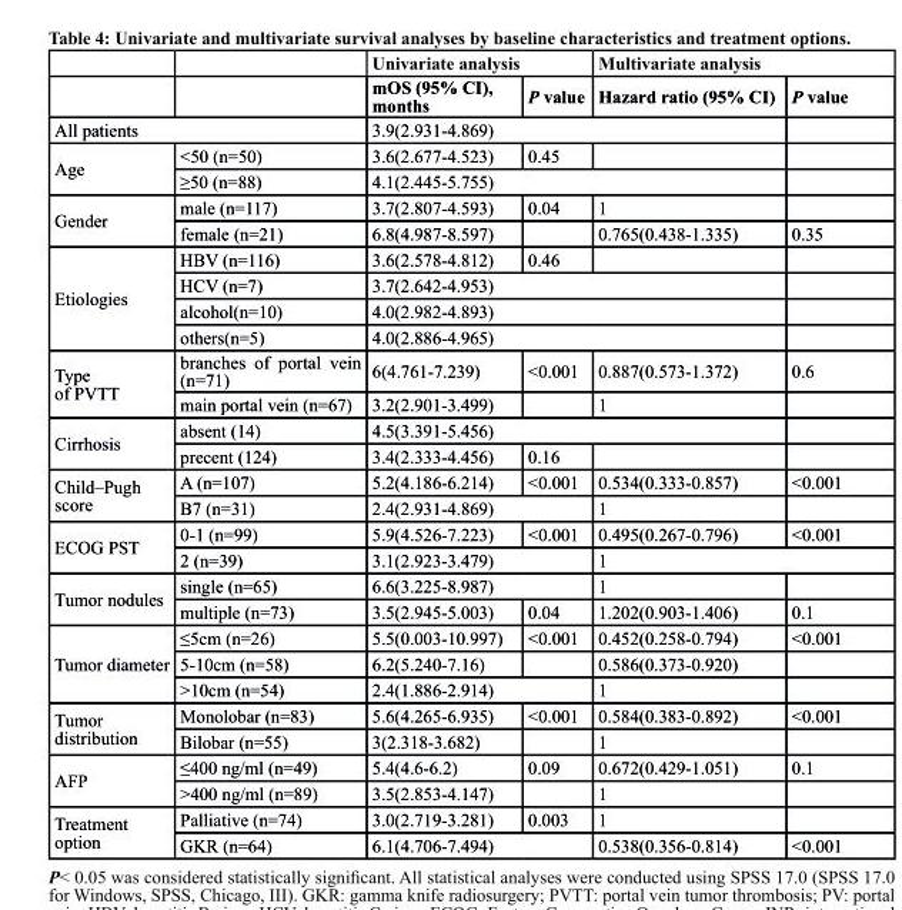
<table><thead><tr><td rowspan="2"></td><td rowspan="2"></td><td colspan="2">univariate analysis</td><td colspan="2">Multivariate analysis</td></tr><tr><td>mos (95% cI), months</td><td>P value</td><td>Hazard ratio (95% cI)</td><td>P value</td></tr></thead><tbody><tr><td colspan="2">All patients</td><td colspan="3">3.9(2.931-4.869)</td><td></td></tr><tr><td rowspan="2">Age</td><td>&lt;50 (n=50)</td><td>3.6(2.677-4.523)</td><td>0.45</td><td></td><td></td></tr><tr><td>≥50 (n=88)</td><td colspan="3">4.1(2.445-5.755)</td><td></td></tr><tr><td rowspan="2">Gender</td><td>male (n=117)</td><td>3.7(2.807-4.593)</td><td>0.04</td><td>1</td><td></td></tr><tr><td>female (n=21)</td><td>6.8(4.987-8.597)</td><td></td><td>0.765(0.438-1.335)</td><td>0.35</td></tr><tr><td rowspan="4">Etiologies</td><td>HBV (n=116)</td><td>3.6(2.578-4.812)</td><td>0.46</td><td></td><td></td></tr><tr><td>HCV (n=7)</td><td colspan="3">3.7(2.642-4.953)</td><td></td></tr><tr><td>alcohol(n=10)</td><td colspan="3">4.0(2.982-4.893)</td><td></td></tr><tr><td>others(n=5)</td><td colspan="3">4.0(2.886-4.965)</td><td></td></tr><tr><td rowspan="2">Type of PVTT</td><td>branches of portal vein (n=71)</td><td>6(4.761-7.239)</td><td>&lt;0.001</td><td>0.887(0.573-1.372)</td><td>0.6</td></tr><tr><td>main portal vein (n=67)</td><td>3.2(2.901-3.499)</td><td></td><td>1</td><td></td></tr><tr><td rowspan="2">Cirrhosis</td><td>absent (14)</td><td colspan="3">4.5(3.391-5.456)</td><td></td></tr><tr><td>precent (124)</td><td>3.4(2.333-4.456)</td><td>0.16</td><td></td><td></td></tr><tr><td rowspan="2">Child–Pugh score</td><td>A (n=107)</td><td>5.2(4.186-6.214)</td><td>&lt;0.001</td><td>0.534(0.333-0.857)</td><td>&lt;0.001</td></tr><tr><td>B7 (n=31)</td><td colspan="2">2.4(2.931-4.869)</td><td>1</td><td></td></tr><tr><td rowspan="2">ECOG PST</td><td>0-1 (n=99)</td><td>5.9(4.526-7.223)</td><td>&lt;0.001</td><td>0.495(0.267-0.796)</td><td>&lt;0.001</td></tr><tr><td>2 (n=39)</td><td colspan="2">3.1(2.923-3.479)</td><td colspan="2">1</td></tr><tr><td rowspan="2">Tumor nodules</td><td>single (n=65)</td><td colspan="2">6.6(3.225-8.987)</td><td>1</td><td></td></tr><tr><td>multiple (n=73)</td><td>3.5(2.945-5.003)</td><td>0.04</td><td>1.202(0.903-1.406)</td><td>0.1</td></tr><tr><td rowspan="3">Tumor diameter</td><td>≤5cm (n=26)</td><td>5.5(0.003-10.997)</td><td>&lt;0.001</td><td>0.452(0.258-0.794)</td><td>&lt;0.001</td></tr><tr><td>5-10cm (n=58)</td><td>6.2(5.240-7.16)</td><td></td><td>0.586(0.373-0.920)</td><td></td></tr><tr><td>&gt;10cm (n=54)</td><td colspan="2">2.4(1.886-2.914)</td><td>1</td><td></td></tr><tr><td rowspan="2">Tumor distribution</td><td>Monolobar (n=83)</td><td>5.6(4.265-6.935)</td><td>&lt;0.001</td><td>0.584(0.383-0.892)</td><td>&lt;0.001</td></tr><tr><td>Bilobar (n=55)</td><td>3(2.318-3.682)</td><td></td><td>1</td><td></td></tr><tr><td rowspan="2">AFP</td><td>≤400 ng/ml (n=49)</td><td>5.4(4.6-6.2)</td><td>0.09</td><td>0.672(0.429-1.051)</td><td>0.1</td></tr><tr><td>&gt;400 ng/ml (n=89)</td><td>3.5(2.853-4.147)</td><td></td><td>1</td><td></td></tr><tr><td rowspan="2">Treatment option</td><td>Palliative (n=74)</td><td>3.0(2.719-3.281)</td><td>0.003</td><td>1</td><td></td></tr><tr><td>GKR (n=64)</td><td colspan="2">6.1(4.706-7.494)</td><td>0.538(0.356-0.814)</td><td>&lt;0.001</td></tr></tbody></table>